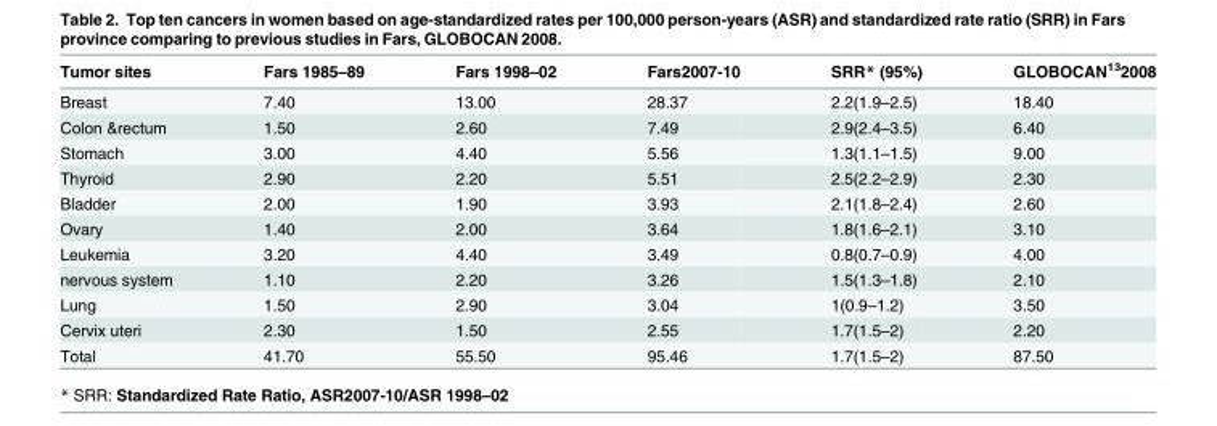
<table><thead><tr><td>Tumor sites</td><td>Fars 1985–89</td><td>Fars 1998–02</td><td>Fars2007-10</td><td>SRR* (95%)</td><td>GLOBOCAN<sup>13</sup>2008</td></tr></thead><tbody><tr><td>Breast</td><td>7.40</td><td>13.00</td><td>28.37</td><td>2.2(1.9–2.5)</td><td>18.40</td></tr><tr><td>Colon &amp;rectum</td><td>1.50</td><td>2.60</td><td>7.49</td><td>2.9(2.4–3.5)</td><td>6.40</td></tr><tr><td>Stomach</td><td>3.00</td><td>4.40</td><td>5.56</td><td>1.3(1.1–1.5)</td><td>9.00</td></tr><tr><td>Thyroid</td><td>2.90</td><td>2.20</td><td>5.51</td><td>2.5(2.2–2.9)</td><td>2.30</td></tr><tr><td>Bladder</td><td>2.00</td><td>1.90</td><td>3.93</td><td>2.1(1.8–2.4)</td><td>2.60</td></tr><tr><td>Ovary</td><td>1.40</td><td>2.00</td><td>3.64</td><td>1.8(1.6–2.1)</td><td>3.10</td></tr><tr><td>Leukemia</td><td>3.20</td><td>4.40</td><td>3.49</td><td>0.8(0.7–0.9)</td><td>4.00</td></tr><tr><td>nervous system</td><td>1.10</td><td>2.20</td><td>3.26</td><td>1.5(1.3–1.8)</td><td>2.10</td></tr><tr><td>Lung</td><td>1.50</td><td>2.90</td><td>3.04</td><td>1(0.9–1.2)</td><td>3.50</td></tr><tr><td>Cervix uteri</td><td>2.30</td><td>1.50</td><td>2.55</td><td>1.7(1.5–2)</td><td>2.20</td></tr><tr><td>Total</td><td>41.70</td><td>55.50</td><td>95.46</td><td>1.7(1.5–2)</td><td>87.50</td></tr></tbody></table>